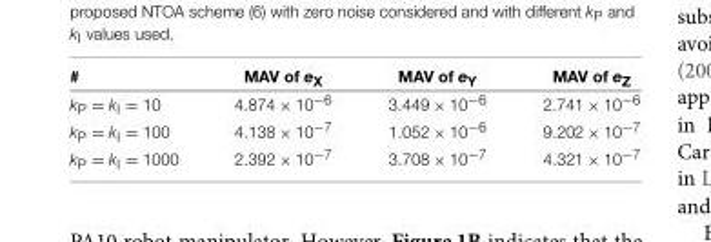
<table><thead><tr><td>#</td><td>MAV of e<sub>X</sub></td><td>MAV of e<sub>Y</sub></td><td>MAV of e<sub>Z</sub></td></tr></thead><tbody><tr><td>k<sub>P</sub> = k<sub>I</sub> = 10</td><td>4.874 × 10<sup>−6</sup></td><td>3.449 × 10<sup>−6</sup></td><td>2.741 × 10<sup>−6</sup></td></tr><tr><td>k<sub>P</sub> = k<sub>I</sub> = 100</td><td>4.138 × 10<sup>−7</sup></td><td>1.052 × 10<sup>−6</sup></td><td>9.202 × 10<sup>−7</sup></td></tr><tr><td>k<sub>P</sub> = k<sub>I</sub> = 1000</td><td>2.392 × 10<sup>−7</sup></td><td>3.708 × 10<sup>−7</sup></td><td>4.321 × 10<sup>−7</sup></td></tr></tbody></table>